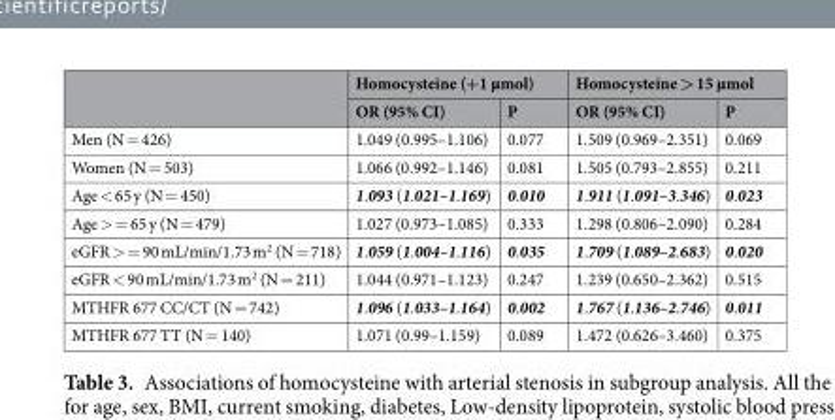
<table><thead><tr><td rowspan="2"></td><td colspan="2">Homocysteine (+1 µmol)</td><td colspan="2">Homocysteine &gt; 15 µmol</td></tr><tr><td>OR (95% CI)</td><td>P</td><td>OR (95% CI)</td><td>P</td></tr></thead><tbody><tr><td>Men (N = 426)</td><td>1.049 (0.995–1.106)</td><td>0.077</td><td>1.509 (0.969–2.351)</td><td>0.069</td></tr><tr><td>Women (N = 503)</td><td>1.066 (0.992–1.146)</td><td>0.081</td><td>1.505 (0.793–2.855)</td><td>0.211</td></tr><tr><td>Age &lt; 65 y (N = 450)</td><td>1.093 (1.021–1.169)</td><td>0.010</td><td>1.911 (1.091–3.346)</td><td>0.023</td></tr><tr><td>Age &gt; = 65 y (N = 479)</td><td>1.027 (0.973–1.085)</td><td>0.333</td><td>1.298 (0.806–2.090)</td><td>0.284</td></tr><tr><td>eGFR &gt; = 90 mL/min/1.73 m<sup>2</sup> (N = 718)</td><td>1.059 (1.004–1.116)</td><td>0.035</td><td>1.709 (1.089–2.683)</td><td>0.020</td></tr><tr><td>eGFR &lt; 90 mL/min/1.73 m<sup>2</sup> (N = 211)</td><td>1.044 (0.971–1.123)</td><td>0.247</td><td>1.239 (0.650–2.362)</td><td>0.515</td></tr><tr><td>MTHFR 677 CC/CT (N = 742)</td><td>1.096 (1.033–1.164)</td><td>0.002</td><td>1.767 (1.136–2.746)</td><td>0.011</td></tr><tr><td>MTHFR 677 TT (N = 140)</td><td>1.071 (0.99–1.159)</td><td>0.089</td><td>1.472 (0.626–3.460)</td><td>0.375</td></tr></tbody></table>